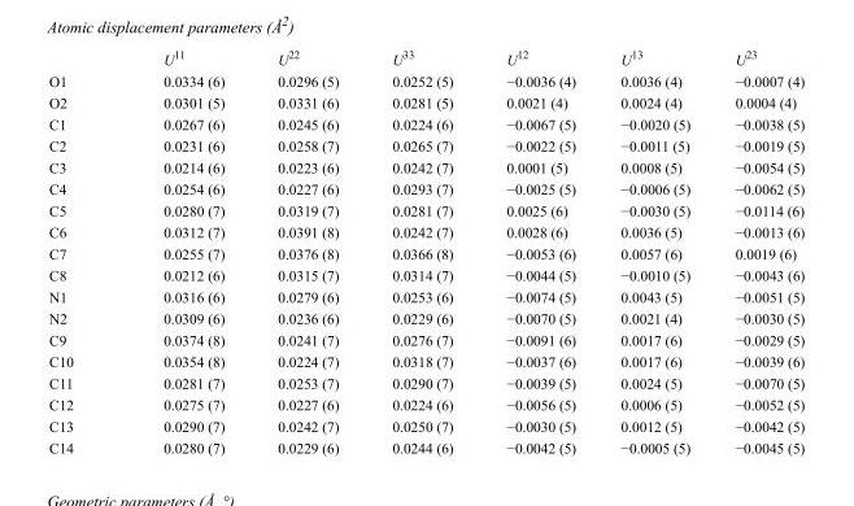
<table><thead><tr><td></td><td>U<sup>11</sup></td><td>U<sup>22</sup></td><td>U<sup>33</sup></td><td>U<sup>12</sup></td><td>U<sup>13</sup></td><td>U<sup>23</sup></td></tr></thead><tbody><tr><td>O1</td><td>0.0334 (6)</td><td>0.0296 (5)</td><td>0.0252 (5)</td><td>−0.0036 (4)</td><td>0.0036 (4)</td><td>−0.0007 (4)</td></tr><tr><td>O2</td><td>0.0301 (5)</td><td>0.0331 (6)</td><td>0.0281 (5)</td><td>0.0021 (4)</td><td>0.0024 (4)</td><td>0.0004 (4)</td></tr><tr><td>C1</td><td>0.0267 (6)</td><td>0.0245 (6)</td><td>0.0224 (6)</td><td>−0.0067 (5)</td><td>−0.0020 (5)</td><td>−0.0038 (5)</td></tr><tr><td>C2</td><td>0.0231 (6)</td><td>0.0258 (7)</td><td>0.0265 (7)</td><td>−0.0022 (5)</td><td>−0.0011 (5)</td><td>−0.0019 (5)</td></tr><tr><td>C3</td><td>0.0214 (6)</td><td>0.0223 (6)</td><td>0.0242 (7)</td><td>0.0001 (5)</td><td>0.0008 (5)</td><td>−0.0054 (5)</td></tr><tr><td>C4</td><td>0.0254 (6)</td><td>0.0227 (6)</td><td>0.0293 (7)</td><td>−0.0025 (5)</td><td>−0.0006 (5)</td><td>−0.0062 (5)</td></tr><tr><td>C5</td><td>0.0280 (7)</td><td>0.0319 (7)</td><td>0.0281 (7)</td><td>0.0025 (6)</td><td>−0.0030 (5)</td><td>−0.0114 (6)</td></tr><tr><td>C6</td><td>0.0312 (7)</td><td>0.0391 (8)</td><td>0.0242 (7)</td><td>0.0028 (6)</td><td>0.0036 (5)</td><td>−0.0013 (6)</td></tr><tr><td>C7</td><td>0.0255 (7)</td><td>0.0376 (8)</td><td>0.0366 (8)</td><td>−0.0053 (6)</td><td>0.0057 (6)</td><td>0.0019 (6)</td></tr><tr><td>C8</td><td>0.0212 (6)</td><td>0.0315 (7)</td><td>0.0314 (7)</td><td>−0.0044 (5)</td><td>−0.0010 (5)</td><td>−0.0043 (6)</td></tr><tr><td>N1</td><td>0.0316 (6)</td><td>0.0279 (6)</td><td>0.0253 (6)</td><td>−0.0074 (5)</td><td>0.0043 (5)</td><td>−0.0051 (5)</td></tr><tr><td>N2</td><td>0.0309 (6)</td><td>0.0236 (6)</td><td>0.0229 (6)</td><td>−0.0070 (5)</td><td>0.0021 (4)</td><td>−0.0030 (5)</td></tr><tr><td>C9</td><td>0.0374 (8)</td><td>0.0241 (7)</td><td>0.0276 (7)</td><td>−0.0091 (6)</td><td>0.0017 (6)</td><td>−0.0029 (5)</td></tr><tr><td>C10</td><td>0.0354 (8)</td><td>0.0224 (7)</td><td>0.0318 (7)</td><td>−0.0037 (6)</td><td>0.0017 (6)</td><td>−0.0039 (6)</td></tr><tr><td>C11</td><td>0.0281 (7)</td><td>0.0253 (7)</td><td>0.0290 (7)</td><td>−0.0039 (5)</td><td>0.0024 (5)</td><td>−0.0070 (5)</td></tr><tr><td>C12</td><td>0.0275 (7)</td><td>0.0227 (6)</td><td>0.0224 (6)</td><td>−0.0056 (5)</td><td>0.0006 (5)</td><td>−0.0052 (5)</td></tr><tr><td>C13</td><td>0.0290 (7)</td><td>0.0242 (7)</td><td>0.0250 (7)</td><td>−0.0030 (5)</td><td>0.0012 (5)</td><td>−0.0042 (5)</td></tr><tr><td>C14</td><td>0.0280 (7)</td><td>0.0229 (6)</td><td>0.0244 (6)</td><td>−0.0042 (5)</td><td>−0.0005 (5)</td><td>−0.0045 (5)</td></tr></tbody></table>